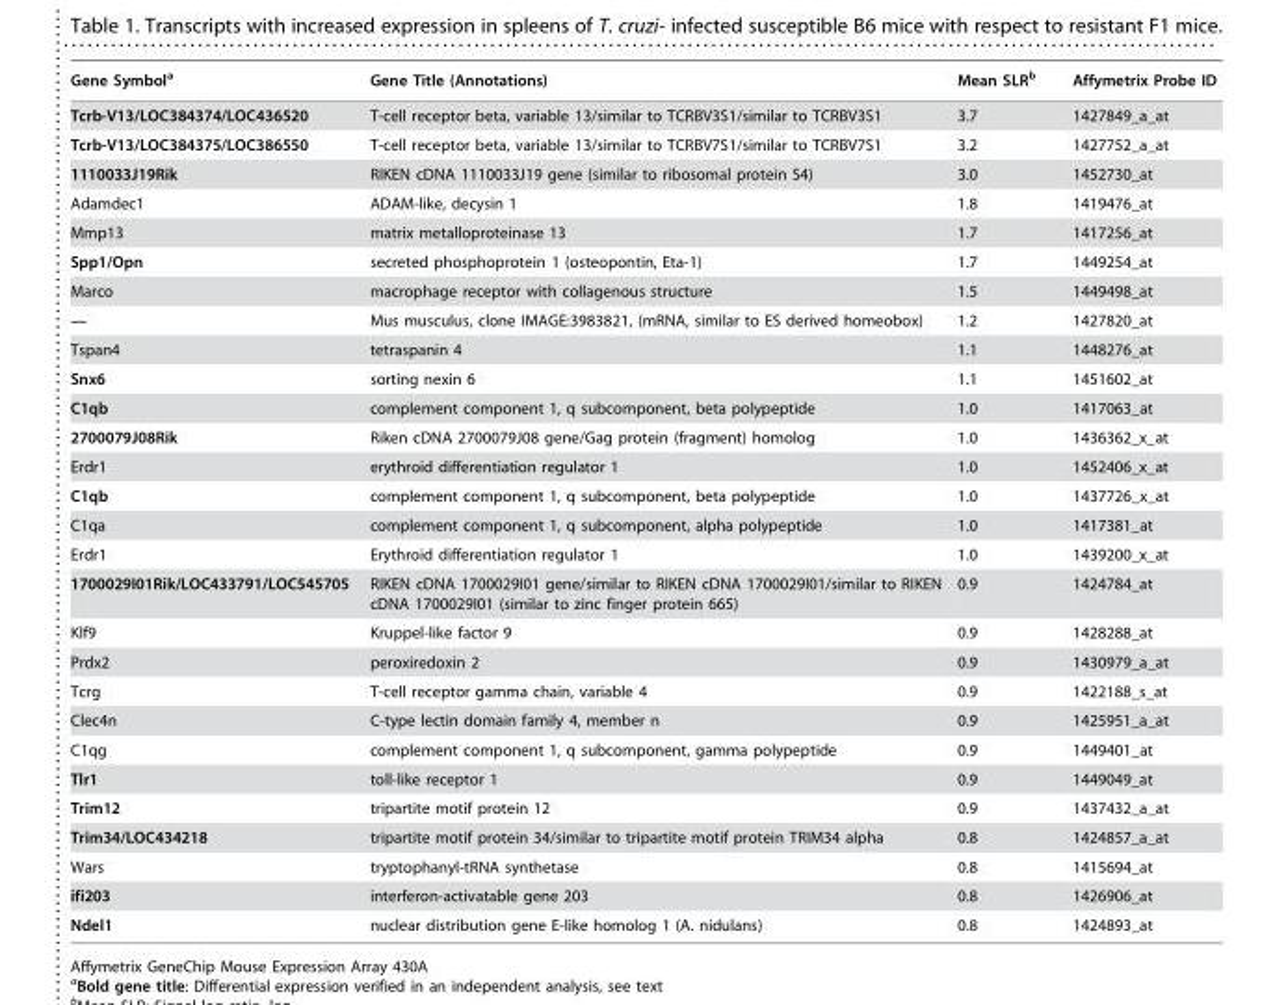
<table><thead><tr><td>Gene Symbol<sup>a</sup></td><td>Gene Title (Annotations)</td><td>Mean SLR<sup>b</sup></td><td>Affymetrix Probe ID</td></tr></thead><tbody><tr><td>Tcrb-V13/LOC384374/LOC436520</td><td>T-cell receptor beta, variable 13/similar to TCRBV3S1/similar to TCRBV3S1</td><td>3.7</td><td>1427849_a_at</td></tr><tr><td>Tcrb-V13/LOC384375/LOC386550</td><td>T-cell receptor beta, variable 13/similar to TCRBV7S1/similar to TCRBV7S1</td><td>3.2</td><td>1427752_a_at</td></tr><tr><td>1110033J19Rik</td><td>RIKEN cDNA 1110033J19 gene (similar to ribosomal protein S4)</td><td>3.0</td><td>1452730_at</td></tr><tr><td>Adamdec1</td><td>ADAM-like, decysin 1</td><td>1.8</td><td>1419476_at</td></tr><tr><td>Mmp13</td><td>matrix metalloproteinase 13</td><td>1.7</td><td>1417256_at</td></tr><tr><td>Spp1/Opn</td><td>secreted phosphoprotein 1 (osteopontin, Eta-1)</td><td>1.7</td><td>1449254_at</td></tr><tr><td>Marco</td><td>macrophage receptor with collagenous structure</td><td>1.5</td><td>1449498_at</td></tr><tr><td>—</td><td>Mus musculus, clone IMAGE:3983821, (mRNA, similar to ES derived homeobox)</td><td>1.2</td><td>1427820_at</td></tr><tr><td>Tspan4</td><td>tetraspanin 4</td><td>1.1</td><td>1448276_at</td></tr><tr><td>Snx6</td><td>sorting nexin 6</td><td>1.1</td><td>1451602_at</td></tr><tr><td>C1qb</td><td>complement component 1, q subcomponent, beta polypeptide</td><td>1.0</td><td>1417063_at</td></tr><tr><td>2700079J08Rik</td><td>Riken cDNA 2700079J08 gene/Gag protein (fragment) homolog</td><td>1.0</td><td>1436362_x_at</td></tr><tr><td>Erdr1</td><td>erythroid differentiation regulator 1</td><td>1.0</td><td>1452406_x_at</td></tr><tr><td>C1qb</td><td>complement component 1, q subcomponent, beta polypeptide</td><td>1.0</td><td>1437726_x_at</td></tr><tr><td>C1qa</td><td>complement component 1, q subcomponent, alpha polypeptide</td><td>1.0</td><td>1417381_at</td></tr><tr><td>Erdr1</td><td>Erythroid differentiation regulator 1</td><td>1.0</td><td>1439200_x_at</td></tr><tr><td>1700029I01Rik/LOC433791/LOC545705</td><td>RIKEN cDNA 1700029I01 gene/similar to RIKEN cDNA 1700029I01/similar to RIKEN cDNA 1700029I01 (similar to zinc finger protein 665)</td><td>0.9</td><td>1424784_at</td></tr><tr><td>Klf9</td><td>Kruppel-like factor 9</td><td>0.9</td><td>1428288_at</td></tr><tr><td>Prdx2</td><td>peroxiredoxin 2</td><td>0.9</td><td>1430979_a_at</td></tr><tr><td>Tcrg</td><td>T-cell receptor gamma chain, variable 4</td><td>0.9</td><td>1422188_s_at</td></tr><tr><td>Clec4n</td><td>C-type lectin domain family 4, member n</td><td>0.9</td><td>1425951_a_at</td></tr><tr><td>C1qg</td><td>complement component 1, q subcomponent, gamma polypeptide</td><td>0.9</td><td>1449401_at</td></tr><tr><td>Tlr1</td><td>toll-like receptor 1</td><td>0.9</td><td>1449049_at</td></tr><tr><td>Trim12</td><td>tripartite motif protein 12</td><td>0.9</td><td>1437432_a_at</td></tr><tr><td>Trim34/LOC434218</td><td>tripartite motif protein 34/similar to tripartite motif protein TRIM34 alpha</td><td>0.8</td><td>1424857_a_at</td></tr><tr><td>Wars</td><td>tryptophanyl-tRNA synthetase</td><td>0.8</td><td>1415694_at</td></tr><tr><td>ifi203</td><td>interferon-activatable gene 203</td><td>0.8</td><td>1426906_at</td></tr><tr><td>Ndel1</td><td>nuclear distribution gene E-like homolog 1 (A. nidulans)</td><td>0.8</td><td>1424893_at</td></tr></tbody></table>